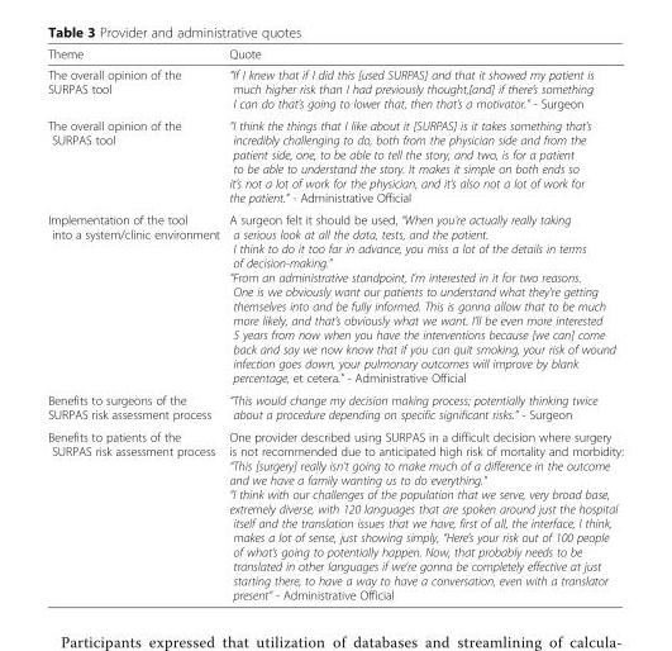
<table><thead><tr><td>Theme</td><td>Quote</td></tr></thead><tbody><tr><td>The overall opinion of the SURPAS tool</td><td>“If I knew that if I did this [used SURPAS] and that it showed my patient is much higher risk than I had previously thought,[and] if there’s something I can do that’s going to lower that, then that’s a motivator.” - Surgeon</td></tr><tr><td>The overall opinion of the SURPAS tool</td><td>“I think the things that I like about it [SURPAS] is it takes something that’s incredibly challenging to do, both from the physician side and from the patient side, one, to be able to tell the story, and two, is for a patient to be able to understand the story. It makes it simple on both ends so it’s not a lot of work for the physician, and it’s also not a lot of work for the patient.” - Administrative Official</td></tr><tr><td>Implementation of the tool into a system/clinic environment</td><td>A surgeon felt it should be used, “When you’re actually really taking a serious look at all the data, tests, and the patient. I think to do it too far in advance, you miss a lot of the details in terms of decision-making.” “From an administrative standpoint, I’m interested in it for two reasons. One is we obviously want our patients to understand what they’re getting themselves into and be fully informed. This is gonna allow that to be much more likely, and that’s obviously what we want. I’ll be even more interested 5 years from now when you have the interventions because [we can] come back and say we now know that if you can quit smoking, your risk of wound infection goes down, your pulmonary outcomes will improve by blank percentage, et cetera.” - Administrative Official</td></tr><tr><td>Benefits to surgeons of the SURPAS risk assessment process</td><td>“This would change my decision making process; potentially thinking twice about a procedure depending on specific significant risks.” - Surgeon</td></tr><tr><td>Benefits to patients of the SURPAS risk assessment process</td><td>One provider described using SURPAS in a difficult decision where surgery is not recommended due to anticipated high risk of mortality and morbidity: “This [surgery] really isn’t going to make much of a difference in the outcome and we have a family wanting us to do everything.” “I think with our challenges of the population that we serve, very broad base, extremely diverse, with 120 languages that are spoken around just the hospital itself and the translation issues that we have, first of all, the interface, I think, makes a lot of sense, just showing simply, “Here’s your risk out of 100 people of what’s going to potentially happen. Now, that probably needs to be translated in other languages if we’re gonna be completely effective at just starting there, to have a way to have a conversation, even with a translator present” - Administrative Official</td></tr></tbody></table>